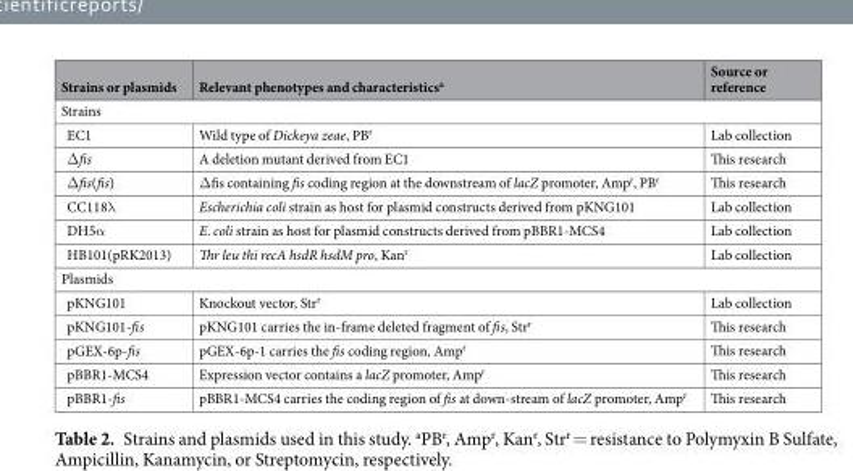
<table><thead><tr><td>Strains or plasmids</td><td>Relevant phenotypes and characteristics<sup>a</sup></td><td>Source or reference</td></tr></thead><tbody><tr><td colspan="3">Strains</td></tr><tr><td>EC1</td><td>Wild type of Dickeya zeae, PB<sup>r</sup></td><td>Lab collection</td></tr><tr><td>Δfis</td><td>A deletion mutant derived from EC1</td><td>This research</td></tr><tr><td>Δfis(fis)</td><td>Δfis containing fis coding region at the downstream of lacZ promoter, Amp<sup>r</sup>, PB<sup>r</sup></td><td>This research</td></tr><tr><td>CC118λ</td><td>Escherichia coli strain as host for plasmid constructs derived from pKNG101</td><td>Lab collection</td></tr><tr><td>DH5α</td><td>E. coli strain as host for plasmid constructs derived from pBBR1-MCS4</td><td>Lab collection</td></tr><tr><td>HB101(pRK2013)</td><td>Thr leu thi recA hsdR hsdM pro, Kan<sup>r</sup></td><td>Lab collection</td></tr><tr><td colspan="3">Plasmids</td></tr><tr><td>pKNG101</td><td>Knockout vector, Str<sup>r</sup></td><td>Lab collection</td></tr><tr><td>pKNG101-fis</td><td>pKNG101 carries the in-frame deleted fragment of fis, Str<sup>r</sup></td><td>This research</td></tr><tr><td>pGEX-6p-fis</td><td>pGEX-6p-1 carries the fis coding region, Amp<sup>r</sup></td><td>This research</td></tr><tr><td>pBBR1-MCS4</td><td>Expression vector contains a lacZ promoter, Amp<sup>r</sup></td><td>This research</td></tr><tr><td>pBBR1-fis</td><td>pBBR1-MCS4 carries the coding region of fis at down-stream of lacZ promoter, Amp<sup>r</sup></td><td>This research</td></tr></tbody></table>